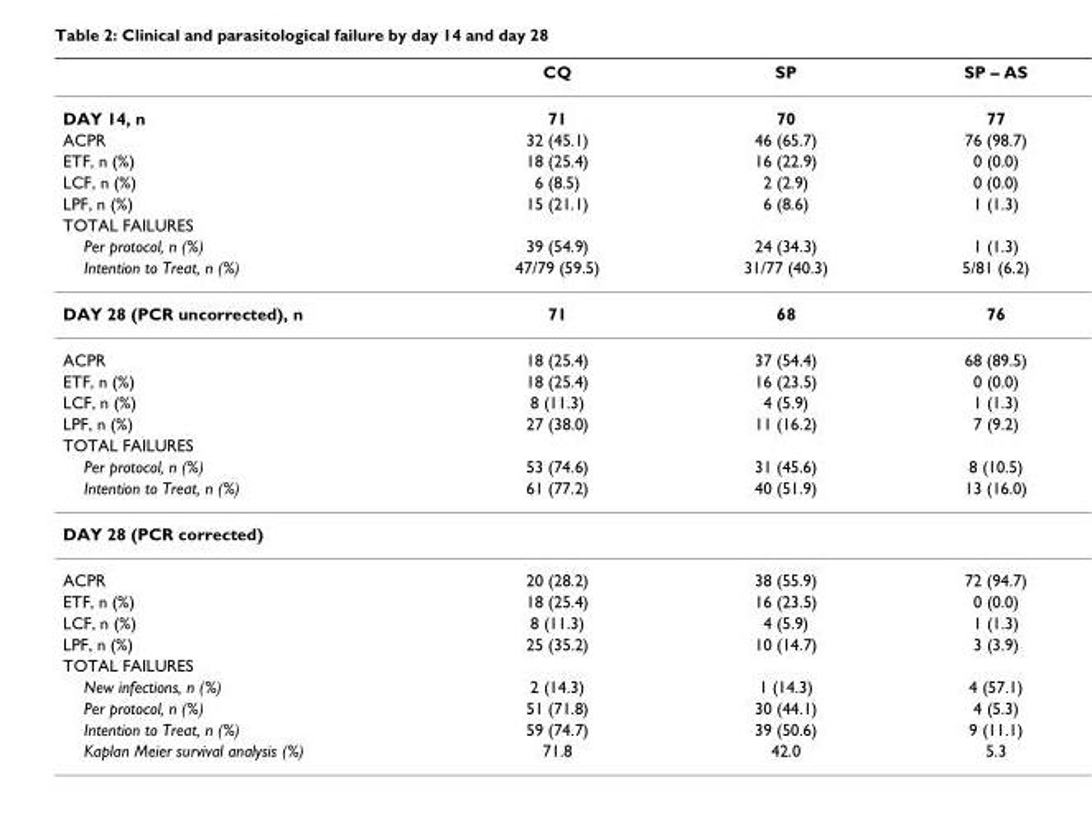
<table><thead><tr><td></td><td>CQ</td><td>SP</td><td>SP – AS</td></tr></thead><tbody><tr><td>DAY 14, n</td><td>71</td><td>70</td><td>77</td></tr><tr><td>ACPR</td><td>32 (45.1)</td><td>46 (65.7)</td><td>76 (98.7)</td></tr><tr><td>ETF, n (%)</td><td>18 (25.4)</td><td>16 (22.9)</td><td>0 (0.0)</td></tr><tr><td>LCF, n (%)</td><td>6 (8.5)</td><td>2 (2.9)</td><td>0 (0.0)</td></tr><tr><td>LPF, n (%)</td><td>15 (21.1)</td><td>6 (8.6)</td><td>1 (1.3)</td></tr><tr><td colspan="4">TOTAL FAILURES</td></tr><tr><td>Per protocol, n (%)</td><td>39 (54.9)</td><td>24 (34.3)</td><td>1 (1.3)</td></tr><tr><td>Intention to Treat, n (%)</td><td>47/79 (59.5)</td><td>31/77 (40.3)</td><td>5/81 (6.2)</td></tr><tr><td>DAY 28 (PCR uncorrected), n</td><td>71</td><td>68</td><td>76</td></tr><tr><td>ACPR</td><td>18 (25.4)</td><td>37 (54.4)</td><td>68 (89.5)</td></tr><tr><td>ETF, n (%)</td><td>18 (25.4)</td><td>16 (23.5)</td><td>0 (0.0)</td></tr><tr><td>LCF, n (%)</td><td>8 (11.3)</td><td>4 (5.9)</td><td>1 (1.3)</td></tr><tr><td>LPF, n (%)</td><td>27 (38.0)</td><td>11 (16.2)</td><td>7 (9.2)</td></tr><tr><td colspan="4">TOTAL FAILURES</td></tr><tr><td>Per protocol, n (%)</td><td>53 (74.6)</td><td>31 (45.6)</td><td>8 (10.5)</td></tr><tr><td>Intention to Treat, n (%)</td><td>61 (77.2)</td><td>40 (51.9)</td><td>13 (16.0)</td></tr><tr><td colspan="4">DAY 28 (PCR corrected)</td></tr><tr><td>ACPR</td><td>20 (28.2)</td><td>38 (55.9)</td><td>72 (94.7)</td></tr><tr><td>ETF, n (%)</td><td>18 (25.4)</td><td>16 (23.5)</td><td>0 (0.0)</td></tr><tr><td>LCF, n (%)</td><td>8 (11.3)</td><td>4 (5.9)</td><td>1 (1.3)</td></tr><tr><td>LPF, n (%)</td><td>25 (35.2)</td><td>10 (14.7)</td><td>3 (3.9)</td></tr><tr><td colspan="4">TOTAL FAILURES</td></tr><tr><td>New infections, n (%)</td><td>2 (14.3)</td><td>1 (14.3)</td><td>4 (57.1)</td></tr><tr><td>Per protocol, n (%)</td><td>51 (71.8)</td><td>30 (44.1)</td><td>4 (5.3)</td></tr><tr><td>Intention to Treat, n (%)</td><td>59 (74.7)</td><td>39 (50.6)</td><td>9 (11.1)</td></tr><tr><td>Kaplan Meier survival analysis (%)</td><td>71.8</td><td>42.0</td><td>5.3</td></tr></tbody></table>